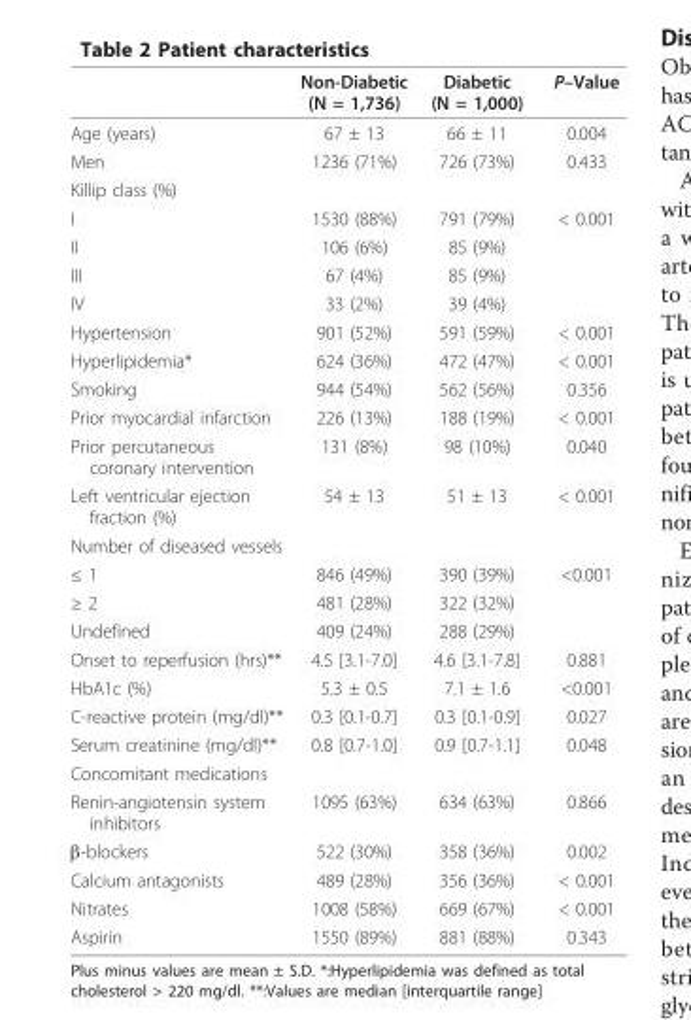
<table><thead><tr><td></td><td>Non-Diabetic (N = 1,736)</td><td>Diabetic (N = 1,000)</td><td>P–Value</td></tr></thead><tbody><tr><td>Age (years)</td><td>67 ± 13</td><td>66 ± 11</td><td>0.004</td></tr><tr><td>Men</td><td>1236 (71%)</td><td>726 (73%)</td><td>0.433</td></tr><tr><td colspan="4">Killip class (%)</td></tr><tr><td>I</td><td>1530 (88%)</td><td>791 (79%)</td><td>&lt; 0.001</td></tr><tr><td>II</td><td>106 (6%)</td><td>85 (9%)</td><td></td></tr><tr><td>III</td><td>67 (4%)</td><td>85 (9%)</td><td></td></tr><tr><td>IV</td><td>33 (2%)</td><td>39 (4%)</td><td></td></tr><tr><td>Hypertension</td><td>901 (52%)</td><td>591 (59%)</td><td>&lt; 0.001</td></tr><tr><td>Hyperlipidemia*</td><td>624 (36%)</td><td>472 (47%)</td><td>&lt; 0.001</td></tr><tr><td>Smoking</td><td>944 (54%)</td><td>562 (56%)</td><td>0.356</td></tr><tr><td>Prior myocardial infarction</td><td>226 (13%)</td><td>188 (19%)</td><td>&lt; 0.001</td></tr><tr><td>Prior percutaneous coronary intervention</td><td>131 (8%)</td><td>98 (10%)</td><td>0.040</td></tr><tr><td>Left ventricular ejection fraction (%)</td><td>54 ± 13</td><td>51 ± 13</td><td>&lt; 0.001</td></tr><tr><td colspan="4">Number of diseased vessels</td></tr><tr><td>≤ 1</td><td>846 (49%)</td><td>390 (39%)</td><td>&lt;0.001</td></tr><tr><td>≥ 2</td><td>481 (28%)</td><td>322 (32%)</td><td></td></tr><tr><td>Undefined</td><td>409 (24%)</td><td>288 (29%)</td><td></td></tr><tr><td>Onset to reperfusion (hrs)**</td><td>4.5 [3.1-7.0]</td><td>4.6 [3.1-7.8]</td><td>0.881</td></tr><tr><td>HbA1c (%)</td><td>5.3 ± 0.5</td><td>7.1 ± 1.6</td><td>&lt;0.001</td></tr><tr><td>C-reactive protein (mg/dl)**</td><td>0.3 [0.1-0.7]</td><td>0.3 [0.1-0.9]</td><td>0.027</td></tr><tr><td>Serum creatinine (mg/dl)**</td><td>0.8 [0.7-1.0]</td><td>0.9 [0.7-1.1]</td><td>0.048</td></tr><tr><td colspan="4">Concomitant medications</td></tr><tr><td>Renin-angiotensin system inhibitors</td><td>1095 (63%)</td><td>634 (63%)</td><td>0.866</td></tr><tr><td>β-blockers</td><td>522 (30%)</td><td>358 (36%)</td><td>0.002</td></tr><tr><td>Calcium antagonists</td><td>489 (28%)</td><td>356 (36%)</td><td>&lt; 0.001</td></tr><tr><td>Nitrates</td><td>1008 (58%)</td><td>669 (67%)</td><td>&lt; 0.001</td></tr><tr><td>Aspirin</td><td>1550 (89%)</td><td>881 (88%)</td><td>0.343</td></tr></tbody></table>